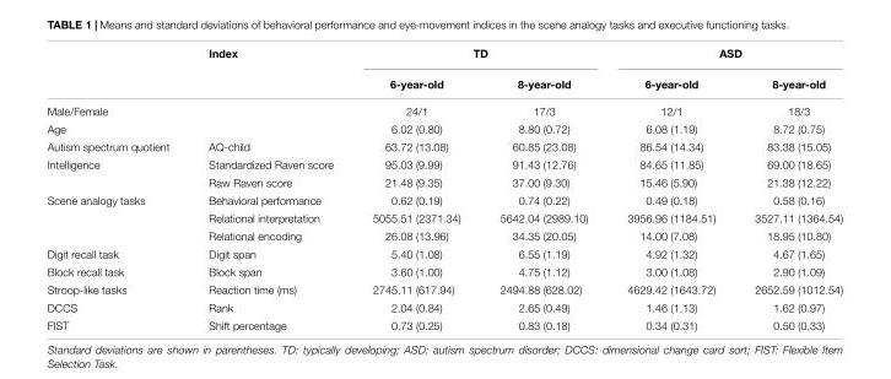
<table><thead><tr><td rowspan="2"></td><td rowspan="2">Index</td><td colspan="2">TD</td><td colspan="2">ASD</td></tr><tr><td>6-year-old</td><td>8-year-old</td><td>6-year-old</td><td>8-year-old</td></tr></thead><tbody><tr><td>Male/Female</td><td></td><td>24/1</td><td>17/3</td><td>12/1</td><td>18/3</td></tr><tr><td>Age</td><td></td><td>6.02 (0.80)</td><td>8.80 (0.72)</td><td>6.08 (1.19)</td><td>8.72 (0.75)</td></tr><tr><td>Autism spectrum quotient</td><td>AQ-child</td><td>63.72 (13.08)</td><td>60.85 (23.08)</td><td>86.54 (14.34)</td><td>83.38 (15.05)</td></tr><tr><td rowspan="2">Intelligence</td><td>Standardized Raven score</td><td>95.03 (9.99)</td><td>91.43 (12.76)</td><td>84.65 (11.85)</td><td>69.00 (18.65)</td></tr><tr><td>Raw Raven score</td><td>21.48 (9.35)</td><td>37.00 (9.30)</td><td>15.46 (5.90)</td><td>21.38 (12.22)</td></tr><tr><td rowspan="3">Scene analogy tasks</td><td>Behavioral performance</td><td>0.62 (0.19)</td><td>0.74 (0.22)</td><td>0.49 (0.18)</td><td>0.58 (0.16)</td></tr><tr><td>Relational interpretation</td><td>5055.51 (2371.34)</td><td>5642.04 (2989.10)</td><td>3956.96 (1184.51)</td><td>3527.11 (1364.54)</td></tr><tr><td>Relational encoding</td><td>26.08 (13.96)</td><td>34.35 (20.05)</td><td>14.00 (7.08)</td><td>18.95 (10.80)</td></tr><tr><td>Digit recall task</td><td>Digit span</td><td>5.40 (1.08)</td><td>6.55 (1.19)</td><td>4.92 (1.32)</td><td>4.67 (1.65)</td></tr><tr><td>Block recall task</td><td>Block span</td><td>3.60 (1.00)</td><td>4.75 (1.12)</td><td>3.00 (1.08)</td><td>2.90 (1.09)</td></tr><tr><td>Stroop-like tasks</td><td>Reaction time (ms)</td><td>2745.11 (617.94)</td><td>2494.88 (628.02)</td><td>4629.42 (1643.72)</td><td>2652.59 (1012.54)</td></tr><tr><td>DCCS</td><td>Rank</td><td>2.04 (0.84)</td><td>2.65 (0.49)</td><td>1.46 (1.13)</td><td>1.62 (0.97)</td></tr><tr><td>FIST</td><td>Shift percentage</td><td>0.73 (0.25)</td><td>0.83 (0.18)</td><td>0.34 (0.31)</td><td>0.50 (0.33)</td></tr></tbody></table>